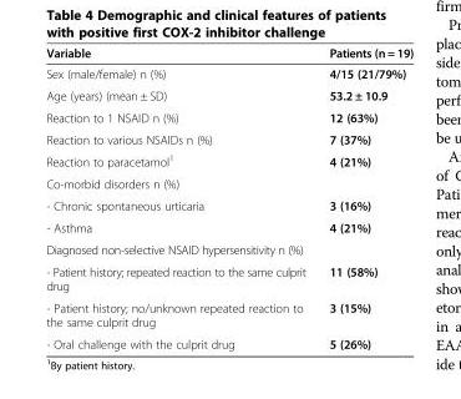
<table><thead><tr><td>Variable</td><td>Patients (n = 19)</td></tr></thead><tbody><tr><td>Sex (male/female) n (%)</td><td>4/15 (21/79%)</td></tr><tr><td>Age (years) (mean ± SD)</td><td>53.2 ± 10.9</td></tr><tr><td>Reaction to 1 NSAID n (%)</td><td>12 (63%)</td></tr><tr><td>Reaction to various NSAIDs n (%)</td><td>7 (37%)</td></tr><tr><td>Reaction to paracetamol<sup>1</sup></td><td>4 (21%)</td></tr><tr><td colspan="2">Co-morbid disorders n (%)</td></tr><tr><td>- Chronic spontaneous urticaria</td><td>3 (16%)</td></tr><tr><td>- Asthma</td><td>4 (21%)</td></tr><tr><td colspan="2">Diagnosed non-selective NSAID hypersensitivity n (%)</td></tr><tr><td>- Patient history; repeated reaction to the same culprit drug</td><td>11 (58%)</td></tr><tr><td>- Patient history; no/unknown repeated reaction to the same culprit drug</td><td>3 (15%)</td></tr><tr><td>- Oral challenge with the culprit drug</td><td>5 (26%)</td></tr></tbody></table>